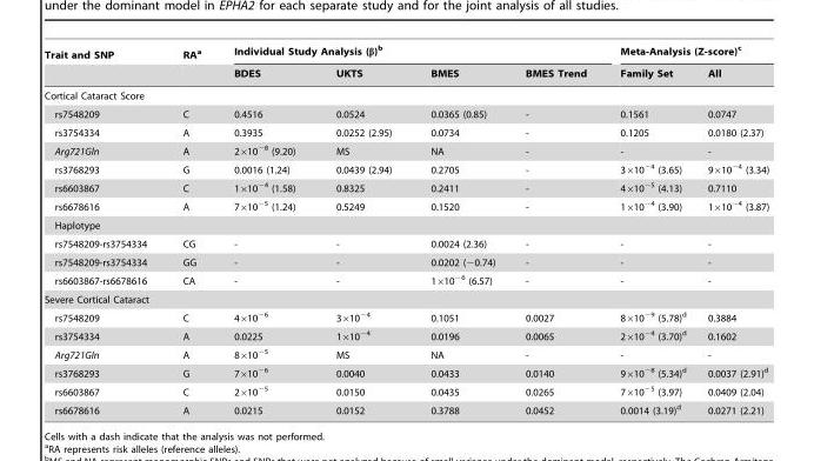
<table><thead><tr><td rowspan="2">Trait and SNP</td><td rowspan="2">RA<sup>a</sup></td><td colspan="4">Individual Study Analysis (β)<sup>b</sup></td><td colspan="2">Meta-Analysis (Z-score)<sup>c</sup></td></tr><tr><td>BDES</td><td>UKTS</td><td>BMES</td><td>BMES Trend</td><td>Family Set</td><td>All</td></tr></thead><tbody><tr><td colspan="8">Cortical Cataract Score</td></tr><tr><td>rs7548209</td><td>C</td><td>0.4516</td><td>0.0524</td><td>0.0365 (0.85)</td><td>-</td><td>0.1561</td><td>0.0747</td></tr><tr><td>rs3754334</td><td>A</td><td>0.3935</td><td>0.0252 (2.95)</td><td>0.0734</td><td>-</td><td>0.1205</td><td>0.0180 (2.37)</td></tr><tr><td>Arg721Gln</td><td>A</td><td>2×10<sup>−8</sup> (9.20)</td><td>MS</td><td>NA</td><td>-</td><td>-</td><td>-</td></tr><tr><td>rs3768293</td><td>G</td><td>0.0016 (1.24)</td><td>0.0439 (2.94)</td><td>0.2705</td><td>-</td><td>3×10<sup>−4</sup> (3.65)</td><td>9×10<sup>−4</sup> (3.34)</td></tr><tr><td>rs6603867</td><td>C</td><td>1×10<sup>−4</sup> (1.58)</td><td>0.8325</td><td>0.2411</td><td>-</td><td>4×10<sup>−5</sup> (4.13)</td><td>0.7110</td></tr><tr><td>rs6678616</td><td>A</td><td>7×10<sup>−5</sup> (1.24)</td><td>0.5249</td><td>0.1520</td><td>-</td><td>1×10<sup>−4</sup> (3.90)</td><td>1×10<sup>−4</sup> (3.87)</td></tr><tr><td colspan="8">Haplotype</td></tr><tr><td>rs7548209-rs3754334</td><td>CG</td><td>-</td><td>-</td><td>0.0024 (2.36)</td><td>-</td><td>-</td><td>-</td></tr><tr><td>rs7548209-rs3754334</td><td>GG</td><td>-</td><td>-</td><td>0.0202 (−0.74)</td><td>-</td><td>-</td><td>-</td></tr><tr><td>rs6603867-rs6678616</td><td>CA</td><td>-</td><td>-</td><td>1×10<sup>−6</sup> (6.57)</td><td>-</td><td>-</td><td>-</td></tr><tr><td colspan="8">Severe Cortical Cataract</td></tr><tr><td>rs7548209</td><td>C</td><td>4×10<sup>−6</sup></td><td>3×10<sup>−4</sup></td><td>0.1051</td><td>0.0027</td><td>8×10<sup>−9</sup> (5.78)<sup>d</sup></td><td>0.3884</td></tr><tr><td>rs3754334</td><td>A</td><td>0.0225</td><td>1×10<sup>−4</sup></td><td>0.0196</td><td>0.0065</td><td>2×10<sup>−4</sup> (3.70)<sup>d</sup></td><td>0.1602</td></tr><tr><td>Arg721Gln</td><td>A</td><td>8×10<sup>−5</sup></td><td>MS</td><td>NA</td><td>-</td><td>-</td><td>-</td></tr><tr><td>rs3768293</td><td>G</td><td>7×10<sup>−6</sup></td><td>0.0040</td><td>0.0433</td><td>0.0140</td><td>9×10<sup>−8</sup> (5.34)<sup>d</sup></td><td>0.0037 (2.91)<sup>d</sup></td></tr><tr><td>rs6603867</td><td>C</td><td>2×10<sup>−5</sup></td><td>0.0150</td><td>0.0435</td><td>0.0265</td><td>7×10<sup>−5</sup> (3.97)</td><td>0.0409 (2.04)</td></tr><tr><td>rs6678616</td><td>A</td><td>0.0215</td><td>0.0152</td><td>0.3788</td><td>0.0452</td><td>0.0014 (3.19)<sup>d</sup></td><td>0.0271 (2.21)</td></tr></tbody></table>